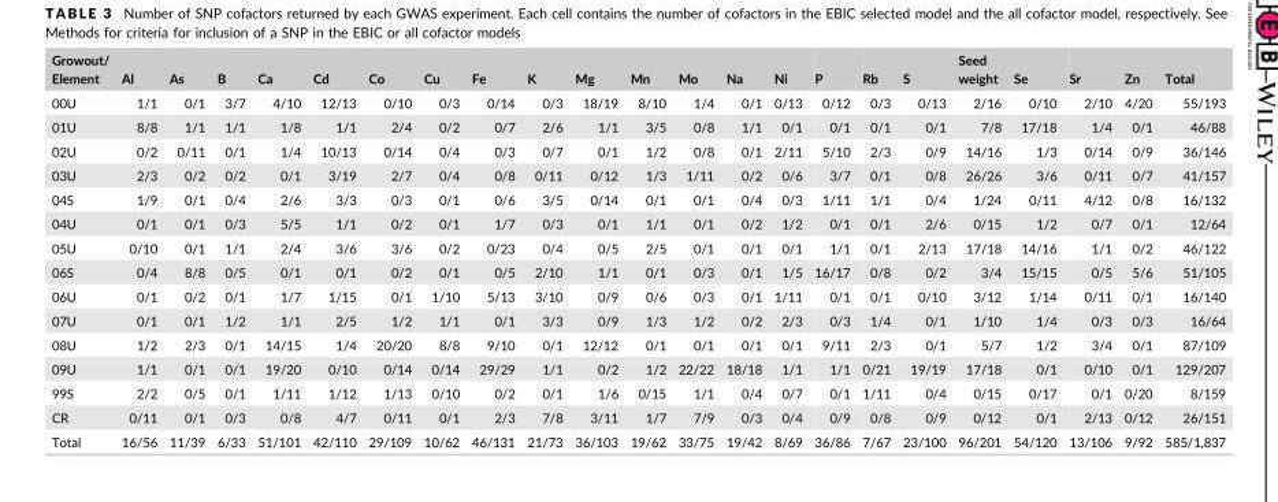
<table><thead><tr><td>Growout/ Element</td><td>Al</td><td>As</td><td>B</td><td>Ca</td><td>Cd</td><td>Co</td><td>Cu</td><td>Fe</td><td>K</td><td>Mg</td><td>Mn</td><td>Mo</td><td>Na</td><td>Ni</td><td>P</td><td>Rb</td><td>S</td><td>Seed weight</td><td>Se</td><td>Sr</td><td>Zn</td><td>Total</td></tr></thead><tbody><tr><td>00U</td><td>1/1</td><td>0/1</td><td>3/7</td><td>4/10</td><td>12/13</td><td>0/10</td><td>0/3</td><td>0/14</td><td>0/3</td><td>18/19</td><td>8/10</td><td>1/4</td><td>0/1</td><td>0/13</td><td>0/12</td><td>0/3</td><td>0/13</td><td>2/16</td><td>0/10</td><td>2/10</td><td>4/20</td><td>55/193</td></tr><tr><td>01U</td><td>8/8</td><td>1/1</td><td>1/1</td><td>1/8</td><td>1/1</td><td>2/4</td><td>0/2</td><td>0/7</td><td>2/6</td><td>1/1</td><td>3/5</td><td>0/8</td><td>1/1</td><td>0/1</td><td>0/1</td><td>0/1</td><td>0/1</td><td>7/8</td><td>17/18</td><td>1/4</td><td>0/1</td><td>46/88</td></tr><tr><td>02U</td><td>0/2</td><td>0/11</td><td>0/1</td><td>1/4</td><td>10/13</td><td>0/14</td><td>0/4</td><td>0/3</td><td>0/7</td><td>0/1</td><td>1/2</td><td>0/8</td><td>0/1</td><td>2/11</td><td>5/10</td><td>2/3</td><td>0/9</td><td>14/16</td><td>1/3</td><td>0/14</td><td>0/9</td><td>36/146</td></tr><tr><td>03U</td><td>2/3</td><td>0/2</td><td>0/2</td><td>0/1</td><td>3/19</td><td>2/7</td><td>0/4</td><td>0/8</td><td>0/11</td><td>0/12</td><td>1/3</td><td>1/11</td><td>0/2</td><td>0/6</td><td>3/7</td><td>0/1</td><td>0/8</td><td>26/26</td><td>3/6</td><td>0/11</td><td>0/7</td><td>41/157</td></tr><tr><td>04S</td><td>1/9</td><td>0/1</td><td>0/4</td><td>2/6</td><td>3/3</td><td>0/3</td><td>0/1</td><td>0/6</td><td>3/5</td><td>0/14</td><td>0/1</td><td>0/1</td><td>0/4</td><td>0/3</td><td>1/11</td><td>1/1</td><td>0/4</td><td>1/24</td><td>0/11</td><td>4/12</td><td>0/8</td><td>16/132</td></tr><tr><td>04U</td><td>0/1</td><td>0/1</td><td>0/3</td><td>5/5</td><td>1/1</td><td>0/2</td><td>0/1</td><td>1/7</td><td>0/3</td><td>0/1</td><td>1/1</td><td>0/1</td><td>0/2</td><td>1/2</td><td>0/1</td><td>0/1</td><td>2/6</td><td>0/15</td><td>1/2</td><td>0/7</td><td>0/1</td><td>12/64</td></tr><tr><td>05U</td><td>0/10</td><td>0/1</td><td>1/1</td><td>2/4</td><td>3/6</td><td>3/6</td><td>0/2</td><td>0/23</td><td>0/4</td><td>0/5</td><td>2/5</td><td>0/1</td><td>0/1</td><td>0/1</td><td>1/1</td><td>0/1</td><td>2/13</td><td>17/18</td><td>14/16</td><td>1/1</td><td>0/2</td><td>46/122</td></tr><tr><td>06S</td><td>0/4</td><td>8/8</td><td>0/5</td><td>0/1</td><td>0/1</td><td>0/2</td><td>0/1</td><td>0/5</td><td>2/10</td><td>1/1</td><td>0/1</td><td>0/3</td><td>0/1</td><td>1/5</td><td>16/17</td><td>0/8</td><td>0/2</td><td>3/4</td><td>15/15</td><td>0/5</td><td>5/6</td><td>51/105</td></tr><tr><td>06U</td><td>0/1</td><td>0/2</td><td>0/1</td><td>1/7</td><td>1/15</td><td>0/1</td><td>1/10</td><td>5/13</td><td>3/10</td><td>0/9</td><td>0/6</td><td>0/3</td><td>0/1</td><td>1/11</td><td>0/1</td><td>0/1</td><td>0/10</td><td>3/12</td><td>1/14</td><td>0/11</td><td>0/1</td><td>16/140</td></tr><tr><td>07U</td><td>0/1</td><td>0/1</td><td>1/2</td><td>1/1</td><td>2/5</td><td>1/2</td><td>1/1</td><td>0/1</td><td>3/3</td><td>0/9</td><td>1/3</td><td>1/2</td><td>0/2</td><td>2/3</td><td>0/3</td><td>1/4</td><td>0/1</td><td>1/10</td><td>1/4</td><td>0/3</td><td>0/3</td><td>16/64</td></tr><tr><td>08U</td><td>1/2</td><td>2/3</td><td>0/1</td><td>14/15</td><td>1/4</td><td>20/20</td><td>8/8</td><td>9/10</td><td>0/1</td><td>12/12</td><td>0/1</td><td>0/1</td><td>0/1</td><td>0/1</td><td>9/11</td><td>2/3</td><td>0/1</td><td>5/7</td><td>1/2</td><td>3/4</td><td>0/1</td><td>87/109</td></tr><tr><td>09U</td><td>1/1</td><td>0/1</td><td>0/1</td><td>19/20</td><td>0/10</td><td>0/14</td><td>0/14</td><td>29/29</td><td>1/1</td><td>0/2</td><td>1/2</td><td>22/22</td><td>18/18</td><td>1/1</td><td>1/1</td><td>0/21</td><td>19/19</td><td>17/18</td><td>0/1</td><td>0/10</td><td>0/1</td><td>129/207</td></tr><tr><td>99S</td><td>2/2</td><td>0/5</td><td>0/1</td><td>1/11</td><td>1/12</td><td>1/13</td><td>0/10</td><td>0/2</td><td>0/1</td><td>1/6</td><td>0/15</td><td>1/1</td><td>0/4</td><td>0/7</td><td>0/1</td><td>1/11</td><td>0/4</td><td>0/15</td><td>0/17</td><td>0/1</td><td>0/20</td><td>8/159</td></tr><tr><td>CR</td><td>0/11</td><td>0/1</td><td>0/3</td><td>0/8</td><td>4/7</td><td>0/11</td><td>0/1</td><td>2/3</td><td>7/8</td><td>3/11</td><td>1/7</td><td>7/9</td><td>0/3</td><td>0/4</td><td>0/9</td><td>0/8</td><td>0/9</td><td>0/12</td><td>0/1</td><td>2/13</td><td>0/12</td><td>26/151</td></tr><tr><td>Total</td><td>16/56</td><td>11/39</td><td>6/33</td><td>51/101</td><td>42/110</td><td>29/109</td><td>10/62</td><td>46/131</td><td>21/73</td><td>36/103</td><td>19/62</td><td>33/75</td><td>19/42</td><td>8/69</td><td>36/86</td><td>7/67</td><td>23/100</td><td>96/201</td><td>54/120</td><td>13/106</td><td>9/92</td><td>585/1,837</td></tr></tbody></table>